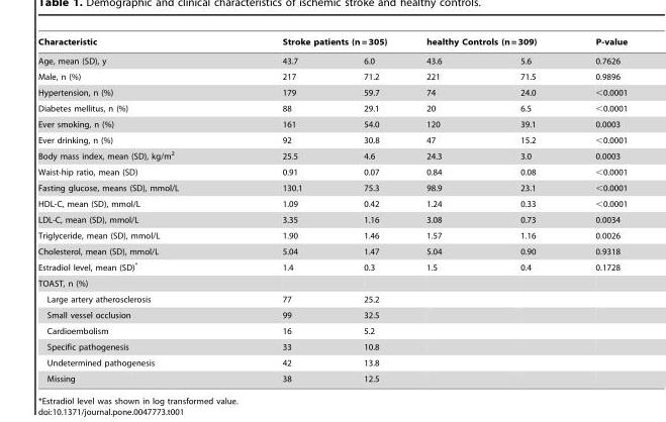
<table><thead><tr><td rowspan="2">Characteristic Age, mean (SD), y</td><td colspan="2">Stroke patients (n = 305)</td><td colspan="2">healthy Controls (n = 309)</td><td rowspan="2">P-value 0.7626</td></tr><tr><td>43.7</td><td>6.0</td><td>43.6</td><td>5.6</td></tr></thead><tbody><tr><td>Male, n (%)</td><td>217</td><td>71.2</td><td>221</td><td>71.5</td><td>0.9896</td></tr><tr><td>Hypertension, n (%)</td><td>179</td><td>59.7</td><td>74</td><td>24.0</td><td>&lt;0.0001</td></tr><tr><td>Diabetes mellitus, n (%)</td><td>88</td><td>29.1</td><td>20</td><td>6.5</td><td>&lt;0.0001</td></tr><tr><td>Ever smoking, n (%)</td><td>161</td><td>54.0</td><td>120</td><td>39.1</td><td>0.0003</td></tr><tr><td>Ever drinking, n (%)</td><td>92</td><td>30.8</td><td>47</td><td>15.2</td><td>&lt;0.0001</td></tr><tr><td>Body mass index, mean (SD), kg/m<sup>2</sup></td><td>25.5</td><td>4.6</td><td>24.3</td><td>3.0</td><td>0.0003</td></tr><tr><td>Waist-hip ratio, mean (SD)</td><td>0.91</td><td>0.07</td><td>0.84</td><td>0.08</td><td>&lt;0.0001</td></tr><tr><td>Fasting glucose, means (SD), mmol/L</td><td>130.1</td><td>75.3</td><td>98.9</td><td>23.1</td><td>&lt;0.0001</td></tr><tr><td>HDL-C, mean (SD), mmol/L</td><td>1.09</td><td>0.42</td><td>1.24</td><td>0.33</td><td>&lt;0.0001</td></tr><tr><td>LDL-C, mean (SD), mmol/L</td><td>3.35</td><td>1.16</td><td>3.08</td><td>0.73</td><td>0.0034</td></tr><tr><td>Triglyceride, mean (SD), mmol/L</td><td>1.90</td><td>1.46</td><td>1.57</td><td>1.16</td><td>0.0026</td></tr><tr><td>Cholesterol, mean (SD), mmol/L</td><td>5.04</td><td>1.47</td><td>5.04</td><td>0.90</td><td>0.9318</td></tr><tr><td>Estradiol level, mean (SD)*</td><td>1.4</td><td>0.3</td><td>1.5</td><td>0.4</td><td>0.1728</td></tr><tr><td colspan="6">TOAST, n (%)</td></tr><tr><td>Large artery atherosclerosis</td><td>77</td><td>25.2</td><td></td><td></td><td></td></tr><tr><td>Small vessel occlusion</td><td>99</td><td>32.5</td><td></td><td></td><td></td></tr><tr><td>Cardioembolism</td><td>16</td><td>5.2</td><td></td><td></td><td></td></tr><tr><td>Specific pathogenesis</td><td>33</td><td>10.8</td><td></td><td></td><td></td></tr><tr><td>Undetermined pathogenesis</td><td>42</td><td>13.8</td><td></td><td></td><td></td></tr><tr><td>Missing</td><td>38</td><td>12.5</td><td></td><td></td><td></td></tr></tbody></table>